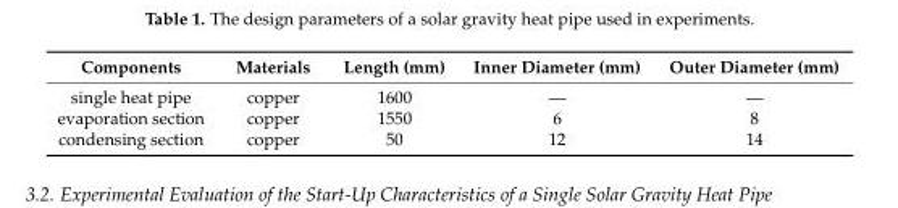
<table><thead><tr><td>Components</td><td>Materials</td><td>Length (mm)</td><td>Inner Diameter (mm)</td><td>Outer Diameter (mm)</td></tr></thead><tbody><tr><td>single heat pipe</td><td>copper</td><td>1600</td><td>—</td><td>—</td></tr><tr><td>evaporation section</td><td>copper</td><td>1550</td><td>6</td><td>8</td></tr><tr><td>condensing section</td><td>copper</td><td>50</td><td>12</td><td>14</td></tr></tbody></table>